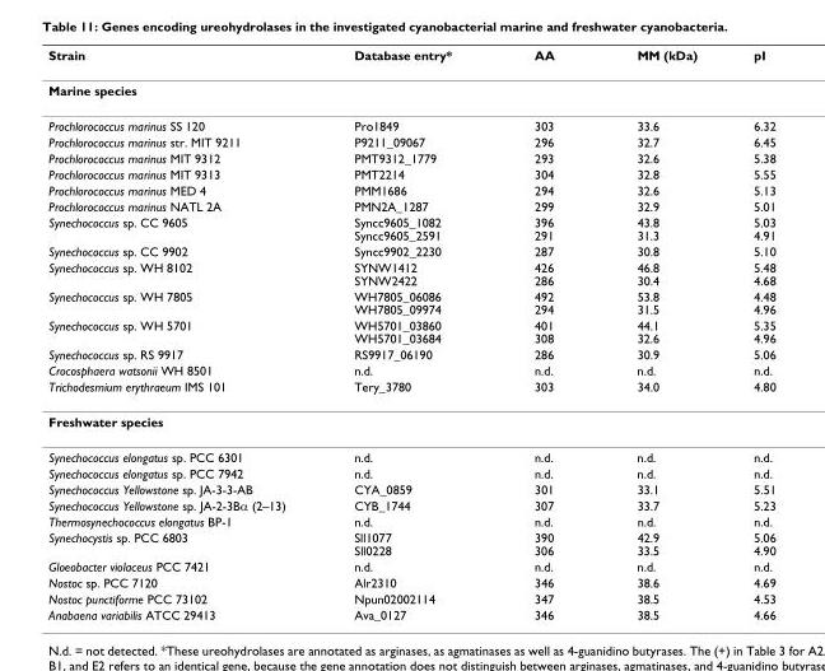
<table><thead><tr><td>Strain</td><td>Database entry*</td><td>AA</td><td>MM (kDa)</td><td>pI</td></tr></thead><tbody><tr><td colspan="5">Marine species</td></tr><tr><td>Prochlorococcus marinus SS 120</td><td>Pro1849</td><td>303</td><td>33.6</td><td>6.32</td></tr><tr><td>Prochlorococcus marinus str. MIT 9211</td><td>P9211_09067</td><td>296</td><td>32.7</td><td>6.45</td></tr><tr><td>Prochlorococcus marinus MIT 9312</td><td>PMT9312_1779</td><td>293</td><td>32.6</td><td>5.38</td></tr><tr><td>Prochlorococcus marinus MIT 9313</td><td>PMT2214</td><td>304</td><td>32.8</td><td>5.55</td></tr><tr><td>Prochlorococcus marinus MED 4</td><td>PMM1686</td><td>294</td><td>32.6</td><td>5.13</td></tr><tr><td>Prochlorococcus marinus NATL 2A</td><td>PMN2A_1287</td><td>299</td><td>32.9</td><td>5.01</td></tr><tr><td>Synechococcus sp. CC 9605</td><td>Syncc9605_1082 Syncc9605_2591</td><td>396 291</td><td>43.8 31.3</td><td>5.03 4.91</td></tr><tr><td>Synechococcus sp. CC 9902</td><td>Syncc9902_2230</td><td>287</td><td>30.8</td><td>5.10</td></tr><tr><td>Synechococcus sp. WH 8102</td><td>SYNW1412 SYNW2422</td><td>426 286</td><td>46.8 30.4</td><td>5.48 4.68</td></tr><tr><td>Synechococcus sp. WH 7805</td><td>WH7805_06086 WH7805_09974</td><td>492 294</td><td>53.8 31.5</td><td>4.48 4.96</td></tr><tr><td>Synechococcus sp. WH 5701</td><td>WH5701_03860 WH5701_03684</td><td>401 308</td><td>44.1 32.6</td><td>5.35 4.96</td></tr><tr><td>Synechococcus sp. RS 9917</td><td>RS9917_06190</td><td>286</td><td>30.9</td><td>5.06</td></tr><tr><td>Crocosphaera watsonii WH 8501</td><td>n.d.</td><td>n.d.</td><td>n.d.</td><td>n.d.</td></tr><tr><td>Trichodesmium erythraeum IMS 101</td><td>Tery_3780</td><td>303</td><td>34.0</td><td>4.80</td></tr><tr><td colspan="5">Freshwater species</td></tr><tr><td>Synechococcus elongatus sp. PCC 6301</td><td>n.d.</td><td>n.d.</td><td>n.d.</td><td>n.d.</td></tr><tr><td>Synechococcus elongatus sp. PCC 7942</td><td>n.d.</td><td>n.d.</td><td>n.d.</td><td>n.d.</td></tr><tr><td>Synechococcus Yellowstone sp. JA-3-3-AB</td><td>CYA_0859</td><td>301</td><td>33.1</td><td>5.51</td></tr><tr><td>Synechococcus Yellowstone sp. JA-2-3Bα (2–13)</td><td>CYB_1744</td><td>307</td><td>33.7</td><td>5.23</td></tr><tr><td>Thermosynechococcus elongatus BP-1</td><td>n.d.</td><td>n.d.</td><td>n.d.</td><td>n.d.</td></tr><tr><td>Synechocystis sp. PCC 6803</td><td>Sll1077 Sll0228</td><td>390 306</td><td>42.9 33.5</td><td>5.06 4.90</td></tr><tr><td>Gloeobacter violaceus PCC 7421</td><td>n.d.</td><td>n.d.</td><td>n.d.</td><td>n.d.</td></tr><tr><td>Nostoc sp. PCC 7120</td><td>Alr2310</td><td>346</td><td>38.6</td><td>4.69</td></tr><tr><td>Nostoc punctiforme PCC 73102</td><td>Npun02002114</td><td>347</td><td>38.5</td><td>4.53</td></tr><tr><td>Anabaena variabilis ATCC 29413</td><td>Ava_0127</td><td>346</td><td>38.5</td><td>4.66</td></tr></tbody></table>